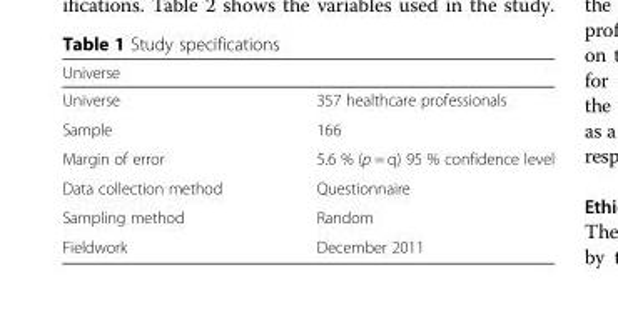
<table><thead><tr><td>Universe</td><td></td></tr></thead><tbody><tr><td>Universe</td><td>357 healthcare professionals</td></tr><tr><td>Sample</td><td>166</td></tr><tr><td>Margin of error</td><td>5.6 % (p = q) 95 % confidence level</td></tr><tr><td>Data collection method</td><td>Questionnaire</td></tr><tr><td>Sampling method</td><td>Random</td></tr><tr><td>Fieldwork</td><td>December 2011</td></tr></tbody></table>